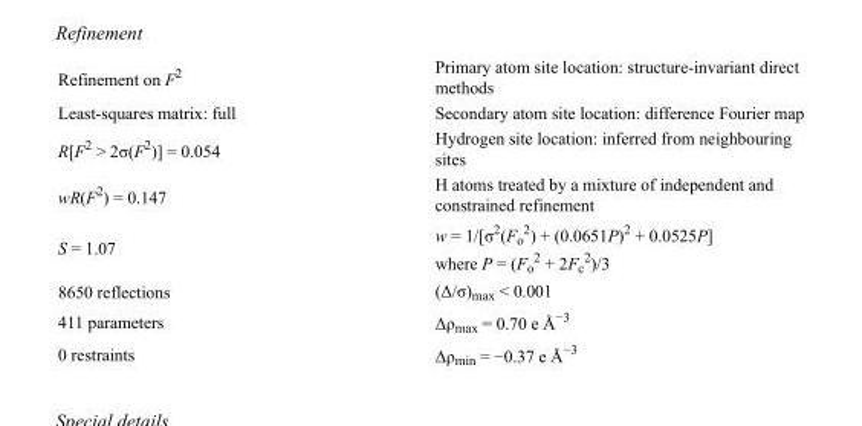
<table><tbody><tr><td>Refinement on F<sup>2</sup></td><td>Primary atom site location: structure-invariant direct methods</td></tr><tr><td>Least-squares matrix: full</td><td>Secondary atom site location: difference Fourier map</td></tr><tr><td>R[F<sup>2</sup> &gt; 2σ(F<sup>2</sup>)] = 0.054</td><td>Hydrogen site location: inferred from neighbouring sites</td></tr><tr><td>wR(F<sup>2</sup>) = 0.147</td><td>H atoms treated by a mixture of independent and constrained refinement</td></tr><tr><td>S = 1.07</td><td>w = 1/[σ<sup>2</sup>(F<sub>o</sub> <sup>2</sup>) + (0.0651P)<sup>2</sup> + 0.0525P] where P = (F<sub>o</sub> <sup>2</sup> + 2F<sub>c</sub> <sup>2</sup>)/3</td></tr><tr><td>8650 reflections</td><td>(Δ/σ)<sub>max</sub> &lt; 0.001</td></tr><tr><td>411 parameters</td><td>Δρ<sub>max</sub> = 0.70 e Å<sup>−3</sup></td></tr><tr><td>0 restraints</td><td>Δρ<sub>min</sub> = −0.37 e Å<sup>−3</sup></td></tr></tbody></table>